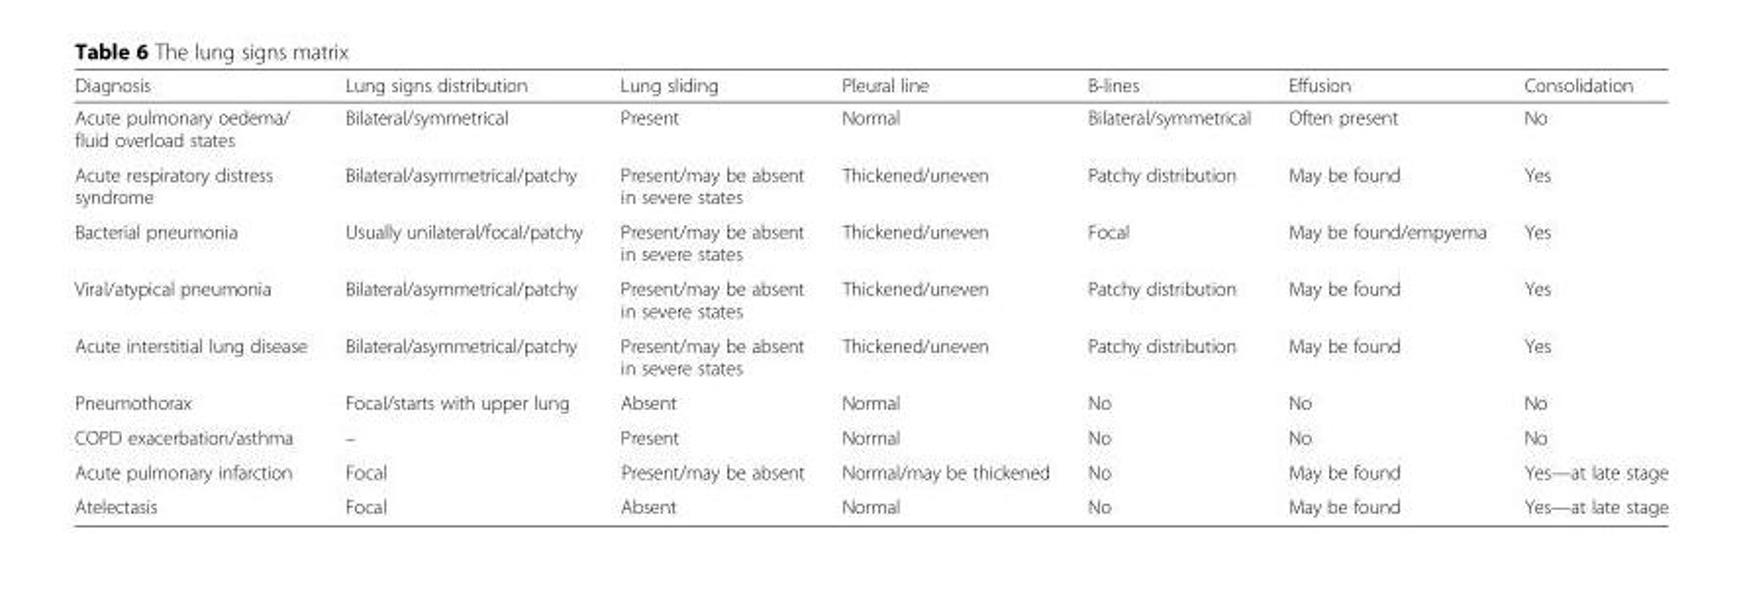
<table><thead><tr><td>Diagnosis</td><td>Lung signs distribution</td><td>Lung sliding</td><td>Pleural line</td><td>B-lines</td><td>Effusion</td><td>Consolidation</td></tr></thead><tbody><tr><td>Acute pulmonary oedema/ fluid overload states</td><td>Bilateral/symmetrical</td><td>Present</td><td>Normal</td><td>Bilateral/symmetrical</td><td>Often present</td><td>No</td></tr><tr><td>Acute respiratory distress syndrome</td><td>Bilateral/asymmetrical/patchy</td><td>Present/may be absent in severe states</td><td>Thickened/uneven</td><td>Patchy distribution</td><td>May be found</td><td>Yes</td></tr><tr><td>Bacterial pneumonia</td><td>Usually unilateral/focal/patchy</td><td>Present/may be absent in severe states</td><td>Thickened/uneven</td><td>Focal</td><td>May be found/empyema</td><td>Yes</td></tr><tr><td>Viral/atypical pneumonia</td><td>Bilateral/asymmetrical/patchy</td><td>Present/may be absent in severe states</td><td>Thickened/uneven</td><td>Patchy distribution</td><td>May be found</td><td>Yes</td></tr><tr><td>Acute interstitial lung disease</td><td>Bilateral/asymmetrical/patchy</td><td>Present/may be absent in severe states</td><td>Thickened/uneven</td><td>Patchy distribution</td><td>May be found</td><td>Yes</td></tr><tr><td>Pneumothorax</td><td>Focal/starts with upper lung</td><td>Absent</td><td>Normal</td><td>No</td><td>No</td><td>No</td></tr><tr><td>COPD exacerbation/asthma</td><td>–</td><td>Present</td><td>Normal</td><td>No</td><td>No</td><td>No</td></tr><tr><td>Acute pulmonary infarction</td><td>Focal</td><td>Present/may be absent</td><td>Normal/may be thickened</td><td>No</td><td>May be found</td><td>Yes—at late stage</td></tr><tr><td>Atelectasis</td><td>Focal</td><td>Absent</td><td>Normal</td><td>No</td><td>May be found</td><td>Yes—at late stage</td></tr></tbody></table>